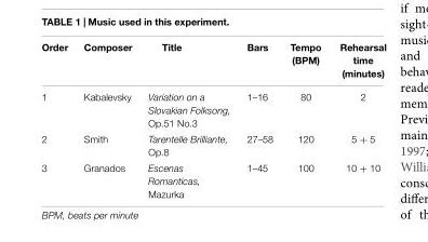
<table><thead><tr><td>Order</td><td>Composer</td><td>Title</td><td>Bars</td><td>Tempo (BPM)</td><td>Rehearsal time (minutes)</td></tr></thead><tbody><tr><td>1</td><td>Kabalevsky</td><td>Variation on a Slovakian Folksong, Op.51 No.3</td><td>1–16</td><td>80</td><td>2</td></tr><tr><td>2</td><td>Smith</td><td>Tarentelle Brilliante, Op.8</td><td>27–58</td><td>120</td><td>5 + 5</td></tr><tr><td>3</td><td>Granados</td><td>Escenas Romanticas, Mazurka</td><td>1–45</td><td>100</td><td>10 + 10</td></tr></tbody></table>